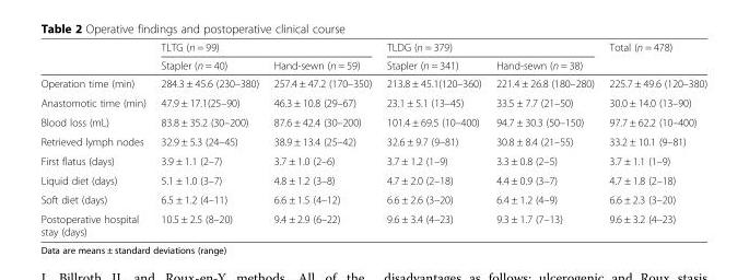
<table><thead><tr><td rowspan="2"></td><td colspan="2">TLTG (n = 99)</td><td colspan="2">TLDG (n = 379)</td><td rowspan="2">Total (n = 478)</td></tr><tr><td>Stapler (n = 40)</td><td>Hand-sewn (n = 59)</td><td>Stapler (n = 341)</td><td>Hand-sewn (n = 38)</td></tr></thead><tbody><tr><td>Operation time (min)</td><td>284.3 ± 45.6 (230–380)</td><td>257.4 ± 47.2 (170–350)</td><td>213.8 ± 45.1(120–360)</td><td>221.4 ± 26.8 (180–280)</td><td>225.7 ± 49.6 (120–380)</td></tr><tr><td>Anastomotic time (min)</td><td>47.9 ± 17.1(25–90)</td><td>46.3 ± 10.8 (29–67)</td><td>23.1 ± 5.1 (13–45)</td><td>33.5 ± 7.7 (21–50)</td><td>30.0 ± 14.0 (13–90)</td></tr><tr><td>Blood loss (mL)</td><td>83.8 ± 35.2 (30–200)</td><td>87.6 ± 42.4 (30–200)</td><td>101.4 ± 69.5 (10–400)</td><td>94.7 ± 30.3 (50–150)</td><td>97.7 ± 62.2 (10–400)</td></tr><tr><td>Retrieved lymph nodes</td><td>32.9 ± 5.3 (24–45)</td><td>38.9 ± 13.4 (25–42)</td><td>32.6 ± 9.7 (9–81)</td><td>30.8 ± 8.4 (21–55)</td><td>33.2 ± 10.1 (9–81)</td></tr><tr><td>First flatus (days)</td><td>3.9 ± 1.1 (2–7)</td><td>3.7 ± 1.0 (2–6)</td><td>3.7 ± 1.2 (1–9)</td><td>3.3 ± 0.8 (2–5)</td><td>3.7 ± 1.1 (1–9)</td></tr><tr><td>Liquid diet (days)</td><td>5.1 ± 1.0 (3–7)</td><td>4.8 ± 1.2 (3–8)</td><td>4.7 ± 2.0 (2–18)</td><td>4.4 ± 0.9 (3–7)</td><td>4.7 ± 1.8 (2–18)</td></tr><tr><td>Soft diet (days)</td><td>6.5 ± 1.2 (4–11)</td><td>6.6 ± 1.5 (4–12)</td><td>6.6 ± 2.6 (3–20)</td><td>6.4 ± 1.2 (4–9)</td><td>6.6 ± 2.3 (3–20)</td></tr><tr><td>Postoperative hospital stay (days)</td><td>10.5 ± 2.5 (8–20)</td><td>9.4 ± 2.9 (6–22)</td><td>9.6 ± 3.4 (4–23)</td><td>9.3 ± 1.7 (7–13)</td><td>9.6 ± 3.2 (4–23)</td></tr></tbody></table>